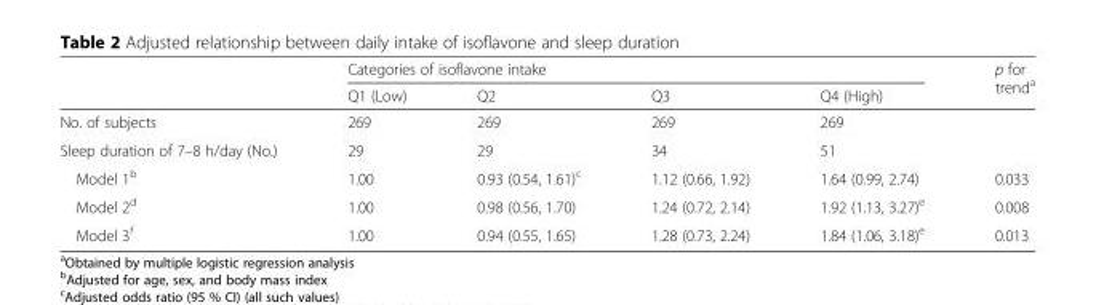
<table><thead><tr><td rowspan="2"></td><td colspan="4">Categories of isoflavone intake</td><td rowspan="2">p for trend<sup>a</sup></td></tr><tr><td>Q1 (Low)</td><td>Q2</td><td>Q3</td><td>Q4 (High)</td></tr></thead><tbody><tr><td>No. of subjects</td><td>269</td><td>269</td><td>269</td><td>269</td><td></td></tr><tr><td>Sleep duration of 7–8 h/day (No.)</td><td>29</td><td>29</td><td>34</td><td>51</td><td></td></tr><tr><td>Model 1<sup>b</sup></td><td>1.00</td><td>0.93 (0.54, 1.61)<sup>c</sup></td><td>1.12 (0.66, 1.92)</td><td>1.64 (0.99, 2.74)</td><td>0.033</td></tr><tr><td>Model 2<sup>d</sup></td><td>1.00</td><td>0.98 (0.56, 1.70)</td><td>1.24 (0.72, 2.14)</td><td>1.92 (1.13, 3.27)<sup>e</sup></td><td>0.008</td></tr><tr><td>Model 3<sup>f</sup></td><td>1.00</td><td>0.94 (0.55, 1.65)</td><td>1.28 (0.73, 2.24)</td><td>1.84 (1.06, 3.18)<sup>e</sup></td><td>0.013</td></tr></tbody></table>